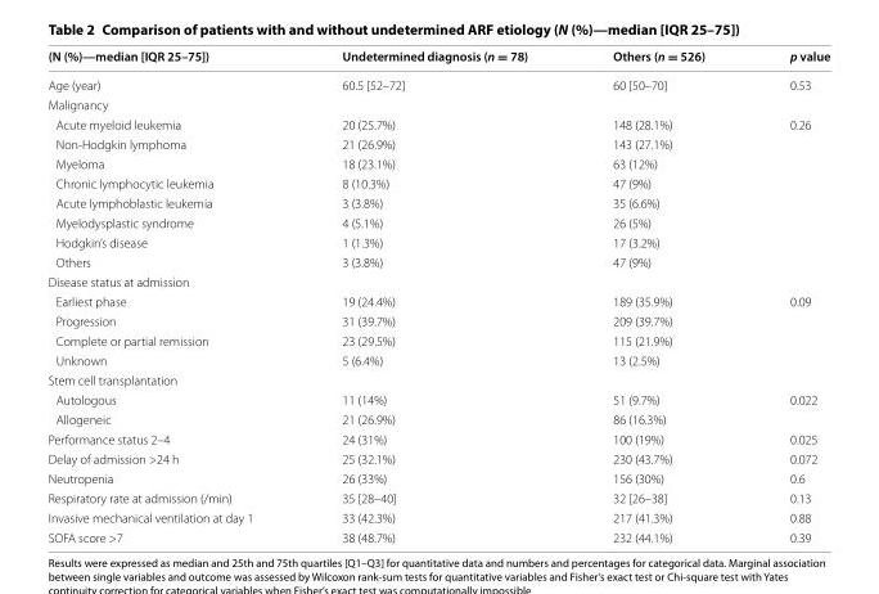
<table><thead><tr><td>(N (%)—median [IQR 25–75])</td><td>Undetermined diagnosis (n = 78)</td><td>Others (n = 526)</td><td>p value</td></tr></thead><tbody><tr><td>Age (year)</td><td>60.5 [52–72]</td><td>60 [50–70]</td><td>0.53</td></tr><tr><td colspan="4">Malignancy</td></tr><tr><td>Acute myeloid leukemia</td><td>20 (25.7%)</td><td>148 (28.1%)</td><td>0.26</td></tr><tr><td>Non‑Hodgkin lymphoma</td><td>21 (26.9%)</td><td>143 (27.1%)</td><td></td></tr><tr><td>Myeloma</td><td>18 (23.1%)</td><td>63 (12%)</td><td></td></tr><tr><td>Chronic lymphocytic leukemia</td><td>8 (10.3%)</td><td>47 (9%)</td><td></td></tr><tr><td>Acute lymphoblastic leukemia</td><td>3 (3.8%)</td><td>35 (6.6%)</td><td></td></tr><tr><td>Myelodysplastic syndrome</td><td>4 (5.1%)</td><td>26 (5%)</td><td></td></tr><tr><td>Hodgkin’s disease</td><td>1 (1.3%)</td><td>17 (3.2%)</td><td></td></tr><tr><td>Others</td><td>3 (3.8%)</td><td>47 (9%)</td><td></td></tr><tr><td colspan="4">Disease status at admission</td></tr><tr><td>Earliest phase</td><td>19 (24.4%)</td><td>189 (35.9%)</td><td>0.09</td></tr><tr><td>Progression</td><td>31 (39.7%)</td><td>209 (39.7%)</td><td></td></tr><tr><td>Complete or partial remission</td><td>23 (29.5%)</td><td>115 (21.9%)</td><td></td></tr><tr><td>Unknown</td><td>5 (6.4%)</td><td>13 (2.5%)</td><td></td></tr><tr><td colspan="4">Stem cell transplantation</td></tr><tr><td>Autologous</td><td>11 (14%)</td><td>51 (9.7%)</td><td>0.022</td></tr><tr><td>Allogeneic</td><td>21 (26.9%)</td><td>86 (16.3%)</td><td></td></tr><tr><td>Performance status 2–4</td><td>24 (31%)</td><td>100 (19%)</td><td>0.025</td></tr><tr><td>Delay of admission &gt;24 h</td><td>25 (32.1%)</td><td>230 (43.7%)</td><td>0.072</td></tr><tr><td>Neutropenia</td><td>26 (33%)</td><td>156 (30%)</td><td>0.6</td></tr><tr><td>Respiratory rate at admission (/min)</td><td>35 [28–40]</td><td>32 [26–38]</td><td>0.13</td></tr><tr><td>Invasive mechanical ventilation at day 1</td><td>33 (42.3%)</td><td>217 (41.3%)</td><td>0.88</td></tr><tr><td>SOFA score &gt;7</td><td>38 (48.7%)</td><td>232 (44.1%)</td><td>0.39</td></tr></tbody></table>